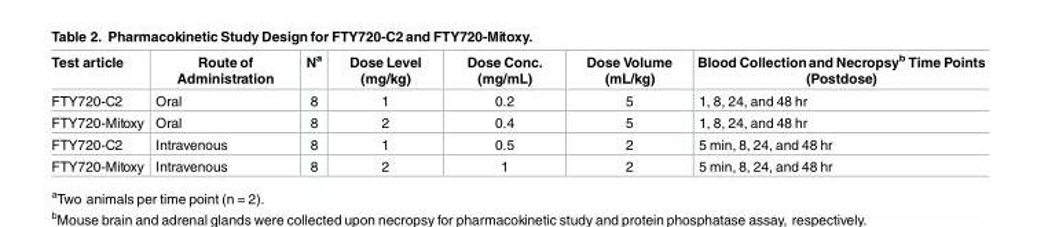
<table><thead><tr><td>Test article</td><td>Route of Administration</td><td>N<sup>a</sup></td><td>Dose Level (mg/kg)</td><td>Dose Conc. (mg/mL)</td><td>Dose Volume (mL/kg)</td><td>Blood Collectionand Necropsy<sup>b</sup> Time Points (Postdose)</td></tr></thead><tbody><tr><td>FTY720-C2</td><td>Oral</td><td>8</td><td>1</td><td>0.2</td><td>5</td><td>1, 8, 24, and 48 hr</td></tr><tr><td>FTY720-Mitoxy</td><td>Oral</td><td>8</td><td>2</td><td>0.4</td><td>5</td><td>1, 8, 24, and 48 hr</td></tr><tr><td>FTY720-C2</td><td>Intravenous</td><td>8</td><td>1</td><td>0.5</td><td>2</td><td>5 min, 8, 24, and 48 hr</td></tr><tr><td>FTY720-Mitoxy</td><td>Intravenous</td><td>8</td><td>2</td><td>1</td><td>2</td><td>5 min, 8, 24, and 48 hr</td></tr></tbody></table>